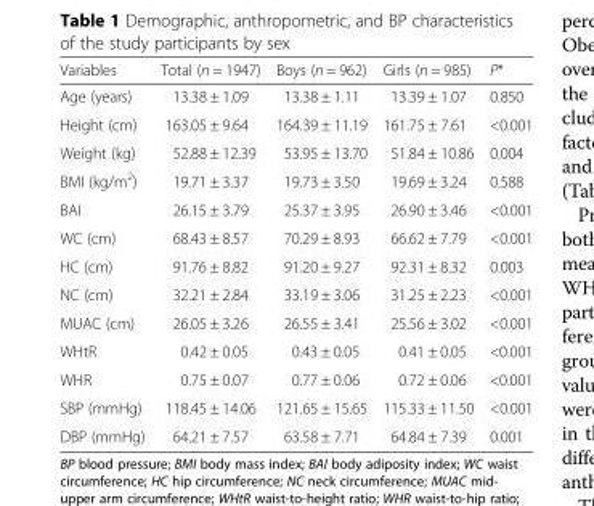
<table><thead><tr><td>Variables</td><td>Total (n = 1947)</td><td>Boys (n = 962)</td><td>Girls (n = 985)</td><td>P*</td></tr></thead><tbody><tr><td>Age (years)</td><td>13.38 ± 1.09</td><td>13.38 ± 1.11</td><td>13.39 ± 1.07</td><td>0.850</td></tr><tr><td>Height (cm)</td><td>163.05 ± 9.64</td><td>164.39 ± 11.19</td><td>161.75 ± 7.61</td><td>&lt;0.001</td></tr><tr><td>Weight (kg)</td><td>52.88 ± 12.39</td><td>53.95 ± 13.70</td><td>51.84 ± 10.86</td><td>0.004</td></tr><tr><td>BMI (kg/m<sup>2</sup>)</td><td>19.71 ± 3.37</td><td>19.73 ± 3.50</td><td>19.69 ± 3.24</td><td>0.588</td></tr><tr><td>BAI</td><td>26.15 ± 3.79</td><td>25.37 ± 3.95</td><td>26.90 ± 3.46</td><td>&lt;0.001</td></tr><tr><td>WC (cm)</td><td>68.43 ± 8.57</td><td>70.29 ± 8.93</td><td>66.62 ± 7.79</td><td>&lt;0.001</td></tr><tr><td>HC (cm)</td><td>91.76 ± 8.82</td><td>91.20 ± 9.27</td><td>92.31 ± 8.32</td><td>0.003</td></tr><tr><td>NC (cm)</td><td>32.21 ± 2.84</td><td>33.19 ± 3.06</td><td>31.25 ± 2.23</td><td>&lt;0.001</td></tr><tr><td>MUAC (cm)</td><td>26.05 ± 3.26</td><td>26.55 ± 3.41</td><td>25.56 ± 3.02</td><td>&lt;0.001</td></tr><tr><td>WHtR</td><td>0.42 ± 0.05</td><td>0.43 ± 0.05</td><td>0.41 ± 0.05</td><td>&lt;0.001</td></tr><tr><td>WHR</td><td>0.75 ± 0.07</td><td>0.77 ± 0.06</td><td>0.72 ± 0.06</td><td>&lt;0.001</td></tr><tr><td>SBP (mmHg)</td><td>118.45 ± 14.06</td><td>121.65 ± 15.65</td><td>115.33 ± 11.50</td><td>&lt;0.001</td></tr><tr><td>DBP (mmHg)</td><td>64.21 ± 7.57</td><td>63.58 ± 7.71</td><td>64.84 ± 7.39</td><td>0.001</td></tr></tbody></table>